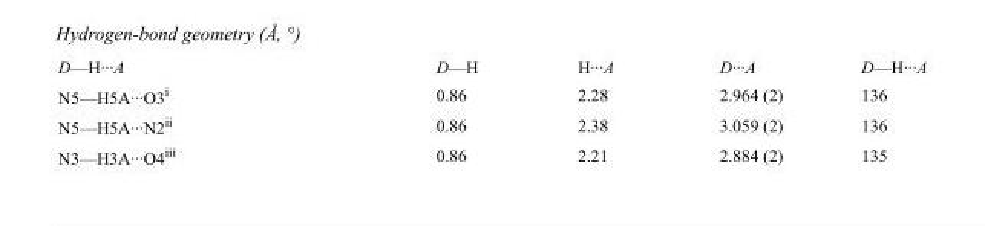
<table><tbody><tr><td>D—H···A</td><td>D—H</td><td>H···A</td><td>D···A</td><td>D—H···A</td></tr><tr><td>N5—H5A···O3<sup>i</sup></td><td>0.86</td><td>2.28</td><td>2.964 (2)</td><td>136</td></tr><tr><td>N5—H5A···N2<sup>ii</sup></td><td>0.86</td><td>2.38</td><td>3.059 (2)</td><td>136</td></tr><tr><td>N3—H3A···O4<sup>iii</sup></td><td>0.86</td><td>2.21</td><td>2.884 (2)</td><td>135</td></tr></tbody></table>